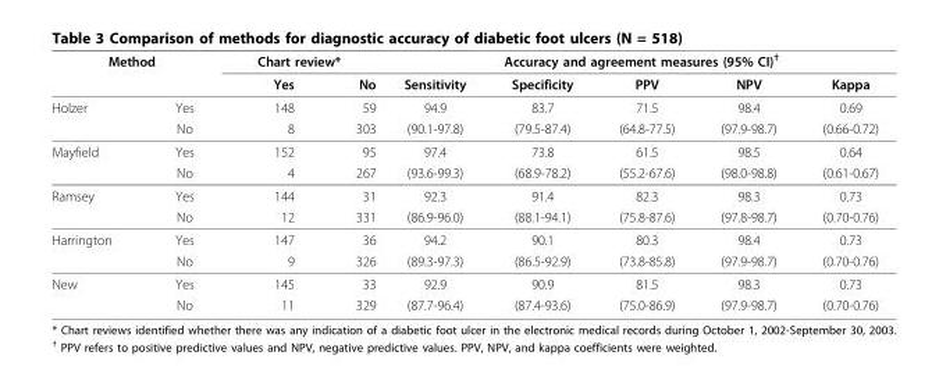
<table><thead><tr><td colspan="2">Method</td><td colspan="2">Chart review*</td><td colspan="5">Accuracy and agreement measures (95% CI)<sup>†</sup></td></tr><tr><td></td><td></td><td>Yes</td><td>No</td><td>Sensitivity</td><td>Specificity</td><td>PPV</td><td>NPV</td><td>Kappa</td></tr></thead><tbody><tr><td rowspan="2">Holzer</td><td>Yes</td><td>148</td><td>59</td><td>94.9</td><td>83.7</td><td>71.5</td><td>98.4</td><td>0.69</td></tr><tr><td>No</td><td>8</td><td>303</td><td>(90.1-97.8)</td><td>(79.5-87.4)</td><td>(64.8-77.5)</td><td>(97.9-98.7)</td><td>(0.66-0.72)</td></tr><tr><td rowspan="2">Mayfield</td><td>Yes</td><td>152</td><td>95</td><td>97.4</td><td>73.8</td><td>61.5</td><td>98.5</td><td>0.64</td></tr><tr><td>No</td><td>4</td><td>267</td><td>(93.6-99.3)</td><td>(68.9-78.2)</td><td>(55.2-67.6)</td><td>(98.0-98.8)</td><td>(0.61-0.67)</td></tr><tr><td rowspan="2">Ramsey</td><td>Yes</td><td>144</td><td>31</td><td>92.3</td><td>91.4</td><td>82.3</td><td>98.3</td><td>0.73</td></tr><tr><td>No</td><td>12</td><td>331</td><td>(86.9-96.0)</td><td>(88.1-94.1)</td><td>(75.8-87.6)</td><td>(97.8-98.7)</td><td>(0.70-0.76)</td></tr><tr><td rowspan="2">Harrington</td><td>Yes</td><td>147</td><td>36</td><td>94.2</td><td>90.1</td><td>80.3</td><td>98.4</td><td>0.73</td></tr><tr><td>No</td><td>9</td><td>326</td><td>(89.3-97.3)</td><td>(86.5-92.9)</td><td>(73.8-85.8)</td><td>(97.9-98.7)</td><td>(0.70-0.76)</td></tr><tr><td rowspan="2">New</td><td>Yes</td><td>145</td><td>33</td><td>92.9</td><td>90.9</td><td>81.5</td><td>98.3</td><td>0.73</td></tr><tr><td>No</td><td>11</td><td>329</td><td>(87.7-96.4)</td><td>(87.4-93.6)</td><td>(75.0-86.9)</td><td>(97.9-98.7)</td><td>(0.70-0.76)</td></tr></tbody></table>